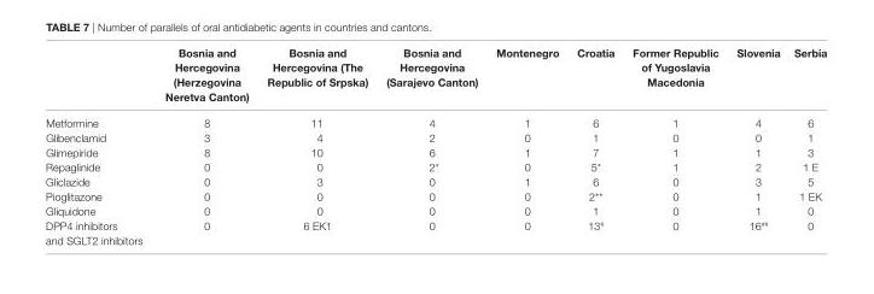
<table><thead><tr><td></td><td>Bosnia and hercegovina (herzegovina neretva canton)</td><td>Bosnia and hercegovina (The republic of srpska)</td><td>Bosnia and hercegovina (sarajevo canton)</td><td>Montenegro</td><td>croatia</td><td>Former republic of Yugoslavia Macedonia</td><td>slovenia</td><td>serbia</td></tr></thead><tbody><tr><td>Metformine</td><td>8</td><td>11</td><td>4</td><td>1</td><td>6</td><td>1</td><td>4</td><td>6</td></tr><tr><td>Glibenclamid</td><td>3</td><td>4</td><td>2</td><td>0</td><td>1</td><td>0</td><td>0</td><td>1</td></tr><tr><td>Glimepiride</td><td>8</td><td>10</td><td>6</td><td>1</td><td>7</td><td>1</td><td>1</td><td>3</td></tr><tr><td>Repaglinide</td><td>0</td><td>0</td><td>2*</td><td>0</td><td>5*</td><td>1</td><td>2</td><td>1 E</td></tr><tr><td>Gliclazide</td><td>0</td><td>3</td><td>0</td><td>1</td><td>6</td><td>0</td><td>3</td><td>5</td></tr><tr><td>Pioglitazone</td><td>0</td><td>0</td><td>0</td><td>0</td><td>2**</td><td>0</td><td>1</td><td>1 EK</td></tr><tr><td>Gliquidone</td><td>0</td><td>0</td><td>0</td><td>0</td><td>1</td><td>0</td><td>1</td><td>0</td></tr><tr><td>DPP4 inhibitors and SGLT2 inhibitors</td><td>0</td><td>6 EK1</td><td>0</td><td>0</td><td>13<sup>#</sup></td><td>0</td><td>16<sup>##</sup></td><td>0</td></tr></tbody></table>